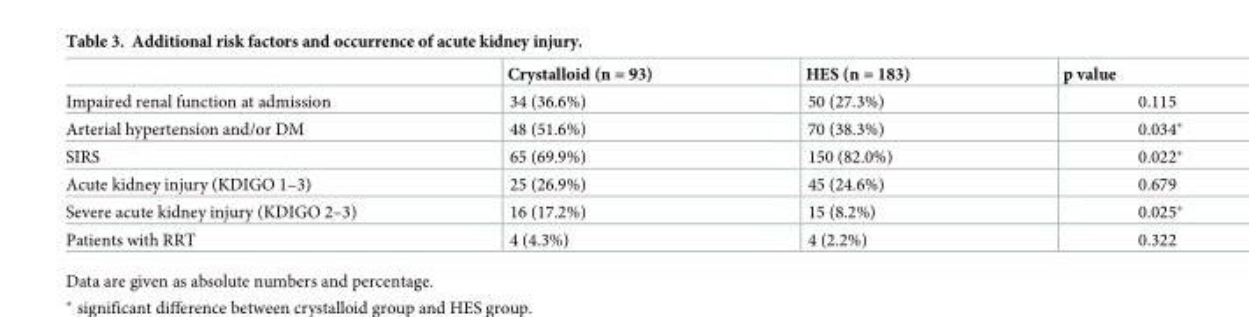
<table><thead><tr><td></td><td>Crystalloid (n = 93)</td><td>HES (n = 183)</td><td>p value</td></tr></thead><tbody><tr><td>Impaired renal function at admission</td><td>34 (36.6%)</td><td>50 (27.3%)</td><td>0.115</td></tr><tr><td>Arterial hypertension and/or DM</td><td>48 (51.6%)</td><td>70 (38.3%)</td><td>0.034*</td></tr><tr><td>SIRS</td><td>65 (69.9%)</td><td>150 (82.0%)</td><td>0.022*</td></tr><tr><td>Acute kidney injury (KDIGO 1–3)</td><td>25 (26.9%)</td><td>45 (24.6%)</td><td>0.679</td></tr><tr><td>Severe acute kidney injury (KDIGO 2–3)</td><td>16 (17.2%)</td><td>15 (8.2%)</td><td>0.025*</td></tr><tr><td>Patients with RRT</td><td>4 (4.3%)</td><td>4 (2.2%)</td><td>0.322</td></tr></tbody></table>